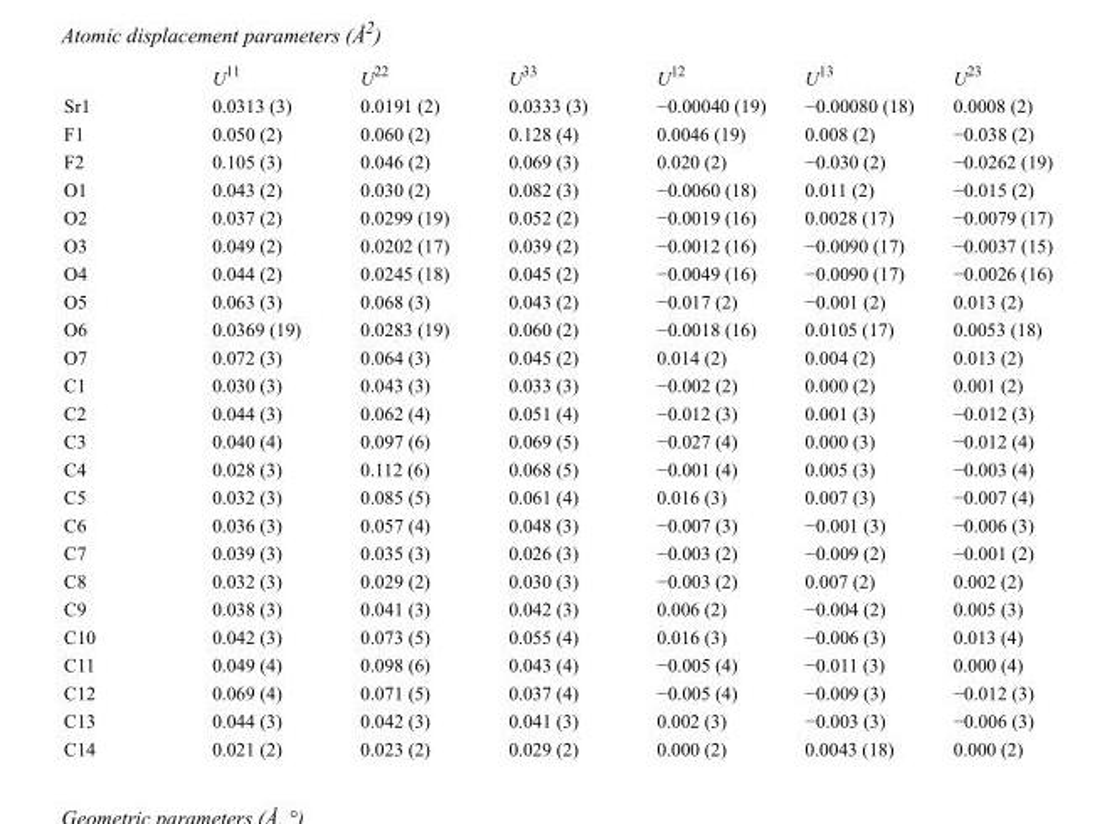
<table><thead><tr><td></td><td>U<sup>11</sup></td><td>U<sup>22</sup></td><td>U<sup>33</sup></td><td>U<sup>12</sup></td><td>U<sup>13</sup></td><td>U<sup>23</sup></td></tr></thead><tbody><tr><td>Sr1</td><td>0.0313 (3)</td><td>0.0191 (2)</td><td>0.0333 (3)</td><td>−0.00040 (19)</td><td>−0.00080 (18)</td><td>0.0008 (2)</td></tr><tr><td>F1</td><td>0.050 (2)</td><td>0.060 (2)</td><td>0.128 (4)</td><td>0.0046 (19)</td><td>0.008 (2)</td><td>−0.038 (2)</td></tr><tr><td>F2</td><td>0.105 (3)</td><td>0.046 (2)</td><td>0.069 (3)</td><td>0.020 (2)</td><td>−0.030 (2)</td><td>−0.0262 (19)</td></tr><tr><td>O1</td><td>0.043 (2)</td><td>0.030 (2)</td><td>0.082 (3)</td><td>−0.0060 (18)</td><td>0.011 (2)</td><td>−0.015 (2)</td></tr><tr><td>O2</td><td>0.037 (2)</td><td>0.0299 (19)</td><td>0.052 (2)</td><td>−0.0019 (16)</td><td>0.0028 (17)</td><td>−0.0079 (17)</td></tr><tr><td>O3</td><td>0.049 (2)</td><td>0.0202 (17)</td><td>0.039 (2)</td><td>−0.0012 (16)</td><td>−0.0090 (17)</td><td>−0.0037 (15)</td></tr><tr><td>O4</td><td>0.044 (2)</td><td>0.0245 (18)</td><td>0.045 (2)</td><td>−0.0049 (16)</td><td>−0.0090 (17)</td><td>−0.0026 (16)</td></tr><tr><td>O5</td><td>0.063 (3)</td><td>0.068 (3)</td><td>0.043 (2)</td><td>−0.017 (2)</td><td>−0.001 (2)</td><td>0.013 (2)</td></tr><tr><td>O6</td><td>0.0369 (19)</td><td>0.0283 (19)</td><td>0.060 (2)</td><td>−0.0018 (16)</td><td>0.0105 (17)</td><td>0.0053 (18)</td></tr><tr><td>O7</td><td>0.072 (3)</td><td>0.064 (3)</td><td>0.045 (2)</td><td>0.014 (2)</td><td>0.004 (2)</td><td>0.013 (2)</td></tr><tr><td>C1</td><td>0.030 (3)</td><td>0.043 (3)</td><td>0.033 (3)</td><td>−0.002 (2)</td><td>0.000 (2)</td><td>0.001 (2)</td></tr><tr><td>C2</td><td>0.044 (3)</td><td>0.062 (4)</td><td>0.051 (4)</td><td>−0.012 (3)</td><td>0.001 (3)</td><td>−0.012 (3)</td></tr><tr><td>C3</td><td>0.040 (4)</td><td>0.097 (6)</td><td>0.069 (5)</td><td>−0.027 (4)</td><td>0.000 (3)</td><td>−0.012 (4)</td></tr><tr><td>C4</td><td>0.028 (3)</td><td>0.112 (6)</td><td>0.068 (5)</td><td>−0.001 (4)</td><td>0.005 (3)</td><td>−0.003 (4)</td></tr><tr><td>C5</td><td>0.032 (3)</td><td>0.085 (5)</td><td>0.061 (4)</td><td>0.016 (3)</td><td>0.007 (3)</td><td>−0.007 (4)</td></tr><tr><td>C6</td><td>0.036 (3)</td><td>0.057 (4)</td><td>0.048 (3)</td><td>−0.007 (3)</td><td>−0.001 (3)</td><td>−0.006 (3)</td></tr><tr><td>C7</td><td>0.039 (3)</td><td>0.035 (3)</td><td>0.026 (3)</td><td>−0.003 (2)</td><td>−0.009 (2)</td><td>−0.001 (2)</td></tr><tr><td>C8</td><td>0.032 (3)</td><td>0.029 (2)</td><td>0.030 (3)</td><td>−0.003 (2)</td><td>0.007 (2)</td><td>0.002 (2)</td></tr><tr><td>C9</td><td>0.038 (3)</td><td>0.041 (3)</td><td>0.042 (3)</td><td>0.006 (2)</td><td>−0.004 (2)</td><td>0.005 (3)</td></tr><tr><td>C10</td><td>0.042 (3)</td><td>0.073 (5)</td><td>0.055 (4)</td><td>0.016 (3)</td><td>−0.006 (3)</td><td>0.013 (4)</td></tr><tr><td>C11</td><td>0.049 (4)</td><td>0.098 (6)</td><td>0.043 (4)</td><td>−0.005 (4)</td><td>−0.011 (3)</td><td>0.000 (4)</td></tr><tr><td>C12</td><td>0.069 (4)</td><td>0.071 (5)</td><td>0.037 (4)</td><td>−0.005 (4)</td><td>−0.009 (3)</td><td>−0.012 (3)</td></tr><tr><td>C13</td><td>0.044 (3)</td><td>0.042 (3)</td><td>0.041 (3)</td><td>0.002 (3)</td><td>−0.003 (3)</td><td>−0.006 (3)</td></tr><tr><td>C14</td><td>0.021 (2)</td><td>0.023 (2)</td><td>0.029 (2)</td><td>0.000 (2)</td><td>0.0043 (18)</td><td>0.000 (2)</td></tr></tbody></table>